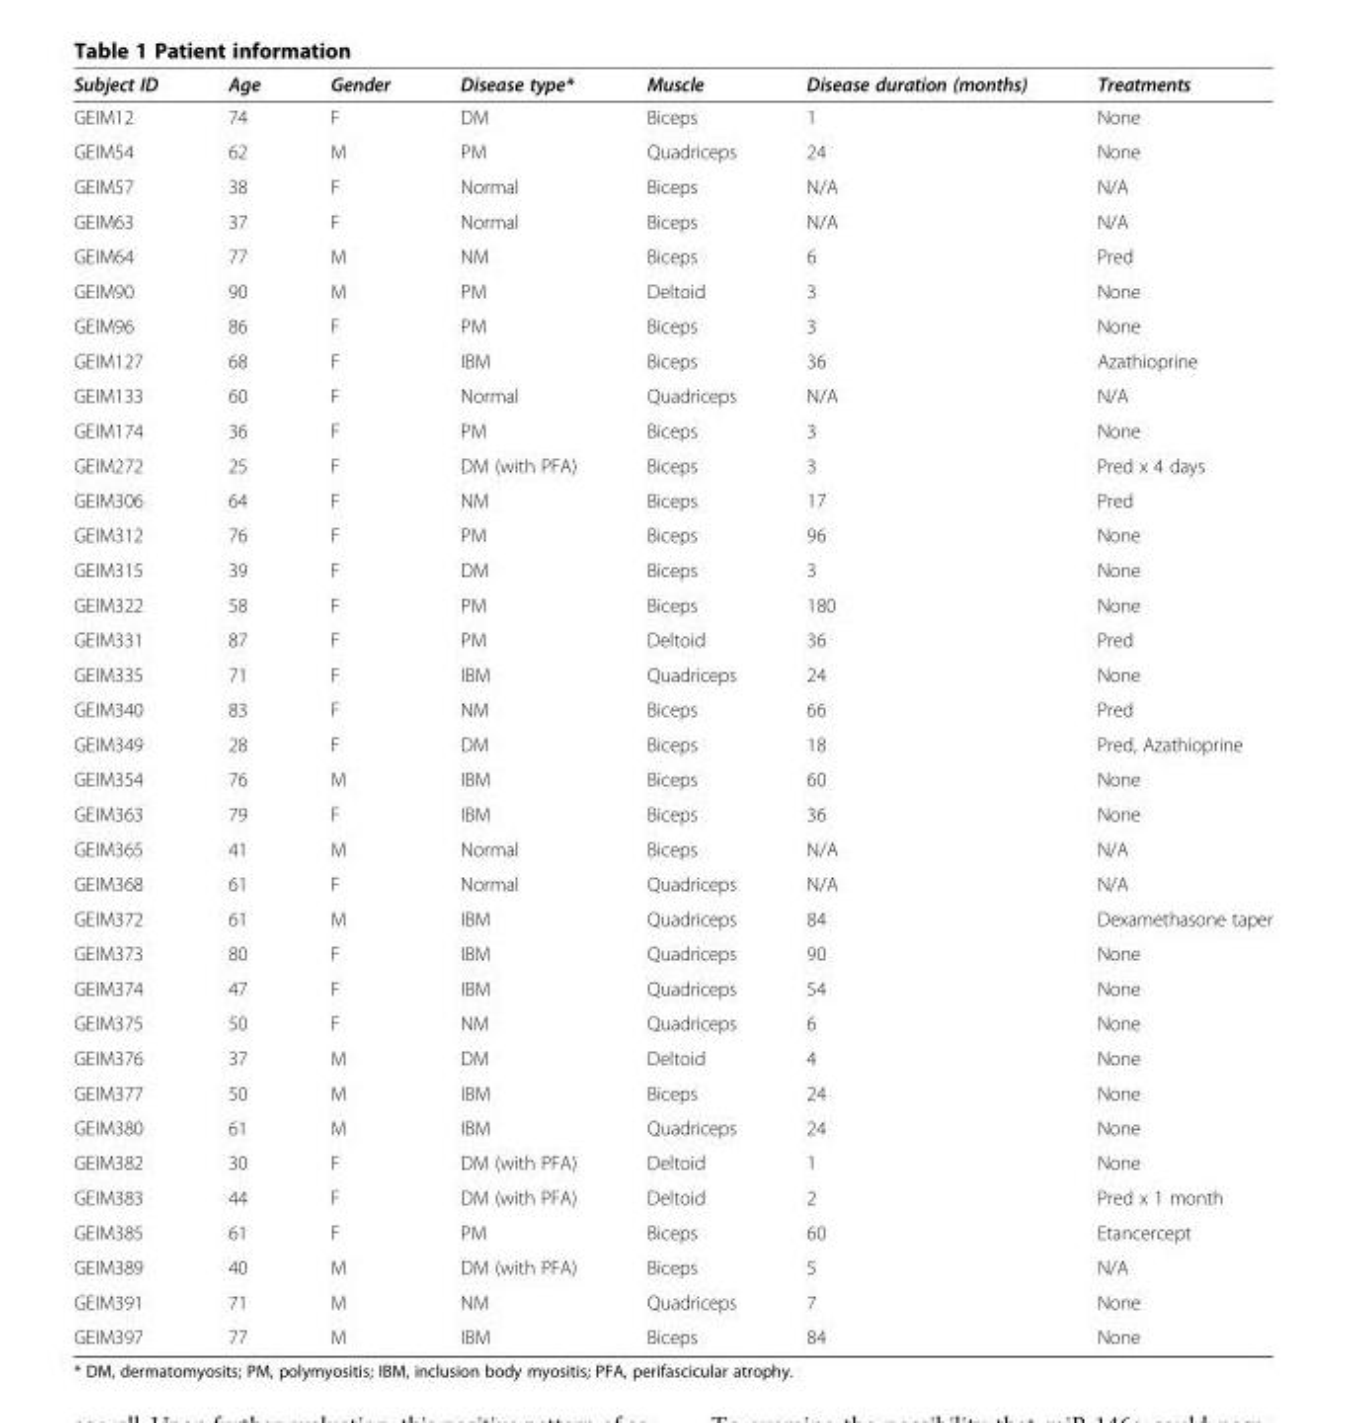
<table><thead><tr><td>Subject ID</td><td>Age</td><td>Gender</td><td>Disease type*</td><td>Muscle</td><td>Disease duration (months)</td><td>Treatments</td></tr></thead><tbody><tr><td>GEIM12</td><td>74</td><td>F</td><td>DM</td><td>Biceps</td><td>1</td><td>None</td></tr><tr><td>GEIM54</td><td>62</td><td>M</td><td>PM</td><td>Quadriceps</td><td>24</td><td>None</td></tr><tr><td>GEIM57</td><td>38</td><td>F</td><td>Normal</td><td>Biceps</td><td>N/A</td><td>N/A</td></tr><tr><td>GEIM63</td><td>37</td><td>F</td><td>Normal</td><td>Biceps</td><td>N/A</td><td>N/A</td></tr><tr><td>GEIM64</td><td>77</td><td>M</td><td>NM</td><td>Biceps</td><td>6</td><td>Pred</td></tr><tr><td>GEIM90</td><td>90</td><td>M</td><td>PM</td><td>Deltoid</td><td>3</td><td>None</td></tr><tr><td>GEIM96</td><td>86</td><td>F</td><td>PM</td><td>Biceps</td><td>3</td><td>None</td></tr><tr><td>GEIM127</td><td>68</td><td>F</td><td>IBM</td><td>Biceps</td><td>36</td><td>Azathioprine</td></tr><tr><td>GEIM133</td><td>60</td><td>F</td><td>Normal</td><td>Quadriceps</td><td>N/A</td><td>N/A</td></tr><tr><td>GEIM174</td><td>36</td><td>F</td><td>PM</td><td>Biceps</td><td>3</td><td>None</td></tr><tr><td>GEIM272</td><td>25</td><td>F</td><td>DM (with PFA)</td><td>Biceps</td><td>3</td><td>Pred x 4 days</td></tr><tr><td>GEIM306</td><td>64</td><td>F</td><td>NM</td><td>Biceps</td><td>17</td><td>Pred</td></tr><tr><td>GEIM312</td><td>76</td><td>F</td><td>PM</td><td>Biceps</td><td>96</td><td>None</td></tr><tr><td>GEIM315</td><td>39</td><td>F</td><td>DM</td><td>Biceps</td><td>3</td><td>None</td></tr><tr><td>GEIM322</td><td>58</td><td>F</td><td>PM</td><td>Biceps</td><td>180</td><td>None</td></tr><tr><td>GEIM331</td><td>87</td><td>F</td><td>PM</td><td>Deltoid</td><td>36</td><td>Pred</td></tr><tr><td>GEIM335</td><td>71</td><td>F</td><td>IBM</td><td>Quadriceps</td><td>24</td><td>None</td></tr><tr><td>GEIM340</td><td>83</td><td>F</td><td>NM</td><td>Biceps</td><td>66</td><td>Pred</td></tr><tr><td>GEIM349</td><td>28</td><td>F</td><td>DM</td><td>Biceps</td><td>18</td><td>Pred, Azathioprine</td></tr><tr><td>GEIM354</td><td>76</td><td>M</td><td>IBM</td><td>Biceps</td><td>60</td><td>None</td></tr><tr><td>GEIM363</td><td>79</td><td>F</td><td>IBM</td><td>Biceps</td><td>36</td><td>None</td></tr><tr><td>GEIM365</td><td>41</td><td>M</td><td>Normal</td><td>Biceps</td><td>N/A</td><td>N/A</td></tr><tr><td>GEIM368</td><td>61</td><td>F</td><td>Normal</td><td>Quadriceps</td><td>N/A</td><td>N/A</td></tr><tr><td>GEIM372</td><td>61</td><td>M</td><td>IBM</td><td>Quadriceps</td><td>84</td><td>Dexamethasone taper</td></tr><tr><td>GEIM373</td><td>80</td><td>F</td><td>IBM</td><td>Quadriceps</td><td>90</td><td>None</td></tr><tr><td>GEIM374</td><td>47</td><td>F</td><td>IBM</td><td>Quadriceps</td><td>54</td><td>None</td></tr><tr><td>GEIM375</td><td>50</td><td>F</td><td>NM</td><td>Quadriceps</td><td>6</td><td>None</td></tr><tr><td>GEIM376</td><td>37</td><td>M</td><td>DM</td><td>Deltoid</td><td>4</td><td>None</td></tr><tr><td>GEIM377</td><td>50</td><td>M</td><td>IBM</td><td>Biceps</td><td>24</td><td>None</td></tr><tr><td>GEIM380</td><td>61</td><td>M</td><td>IBM</td><td>Quadriceps</td><td>24</td><td>None</td></tr><tr><td>GEIM382</td><td>30</td><td>F</td><td>DM (with PFA)</td><td>Deltoid</td><td>1</td><td>None</td></tr><tr><td>GEIM383</td><td>44</td><td>F</td><td>DM (with PFA)</td><td>Deltoid</td><td>2</td><td>Pred x 1 month</td></tr><tr><td>GEIM385</td><td>61</td><td>F</td><td>PM</td><td>Biceps</td><td>60</td><td>Etancercept</td></tr><tr><td>GEIM389</td><td>40</td><td>M</td><td>DM (with PFA)</td><td>Biceps</td><td>5</td><td>N/A</td></tr><tr><td>GEIM391</td><td>71</td><td>M</td><td>NM</td><td>Quadriceps</td><td>7</td><td>None</td></tr><tr><td>GEIM397</td><td>77</td><td>M</td><td>IBM</td><td>Biceps</td><td>84</td><td>None</td></tr></tbody></table>